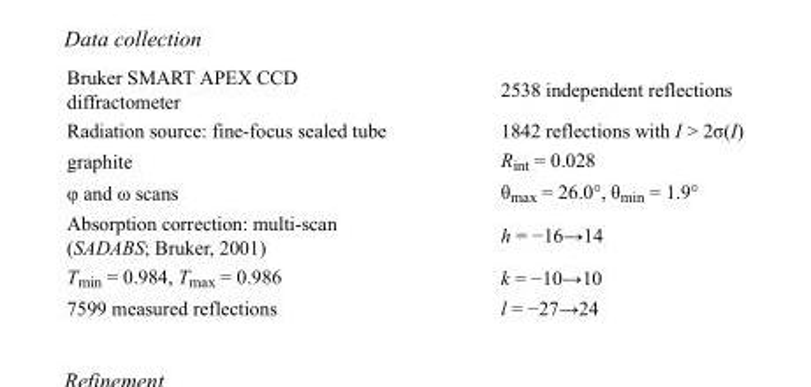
<table><tbody><tr><td>Bruker SMART APEX CCD diffractometer</td><td>2538 independent reflections</td></tr><tr><td>Radiation source: fine-focus sealed tube</td><td>1842 reflections with I &gt; 2σ(I)</td></tr><tr><td>graphite</td><td>R<sub>int</sub> = 0.028</td></tr><tr><td>φ and ω scans</td><td>θ<sub>max</sub> = 26.0°, θ<sub>min</sub> = 1.9°</td></tr><tr><td>Absorption correction: multi-scan (SADABS; Bruker, 2001)</td><td>h = −16→14</td></tr><tr><td>T<sub>min</sub> = 0.984, T<sub>max</sub> = 0.986</td><td>k = −10→10</td></tr><tr><td>7599 measured reflections</td><td>l = −27→24</td></tr></tbody></table>